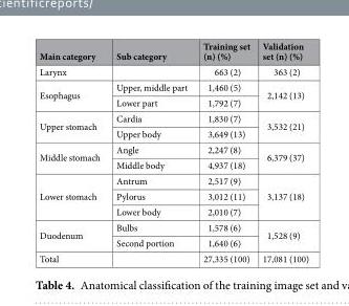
<table><thead><tr><td>Main category</td><td>Sub category</td><td>Training set (n) (%)</td><td>Validation set (n) (%)</td></tr></thead><tbody><tr><td>Larynx</td><td></td><td>663 (2)</td><td>363 (2)</td></tr><tr><td rowspan="2">Esophagus</td><td>Upper, middle part</td><td>1,460 (5)</td><td rowspan="2">2,142 (13)</td></tr><tr><td>Lower part</td><td>1,792 (7)</td></tr><tr><td rowspan="2">Upper stomach</td><td>Cardia</td><td>1,830 (7)</td><td rowspan="2">3,532 (21)</td></tr><tr><td>Upper body</td><td>3,649 (13)</td></tr><tr><td rowspan="2">Middle stomach</td><td>Angle</td><td>2,247 (8)</td><td rowspan="2">6,379 (37)</td></tr><tr><td>Middle body</td><td>4,937 (18)</td></tr><tr><td rowspan="3">Lower stomach</td><td>Antrum</td><td>2,517 (9)</td><td rowspan="3">3,137 (18)</td></tr><tr><td>Pylorus</td><td>3,012 (11)</td></tr><tr><td>Lower body</td><td>2,010 (7)</td></tr><tr><td rowspan="2">Duodenum</td><td>Bulbs</td><td>1,578 (6)</td><td rowspan="2">1,528 (9)</td></tr><tr><td>Second portion</td><td>1,640 (6)</td></tr><tr><td>Total</td><td></td><td>27,335 (100)</td><td>17,081 (100)</td></tr></tbody></table>